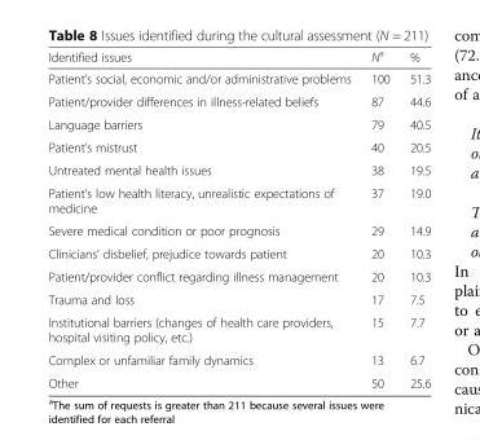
<table><thead><tr><td>Identified issues</td><td>N<sup>a</sup></td><td>%</td></tr></thead><tbody><tr><td>Patient’s social, economic and/or administrative problems</td><td>100</td><td>51.3</td></tr><tr><td>Patient/provider differences in illness-related beliefs</td><td>87</td><td>44.6</td></tr><tr><td>Language barriers</td><td>79</td><td>40.5</td></tr><tr><td>Patient’s mistrust</td><td>40</td><td>20.5</td></tr><tr><td>Untreated mental health issues</td><td>38</td><td>19.5</td></tr><tr><td>Patient’s low health literacy, unrealistic expectations of medicine</td><td>37</td><td>19.0</td></tr><tr><td>Severe medical condition or poor prognosis</td><td>29</td><td>14.9</td></tr><tr><td>Clinicians’ disbelief, prejudice towards patient</td><td>20</td><td>10.3</td></tr><tr><td>Patient/provider conflict regarding illness management</td><td>20</td><td>10.3</td></tr><tr><td>Trauma and loss</td><td>17</td><td>7.5</td></tr><tr><td>Institutional barriers (changes of health care providers, hospital visiting policy, etc.)</td><td>15</td><td>7.7</td></tr><tr><td>Complex or unfamiliar family dynamics</td><td>13</td><td>6.7</td></tr><tr><td>Other</td><td>50</td><td>25.6</td></tr></tbody></table>